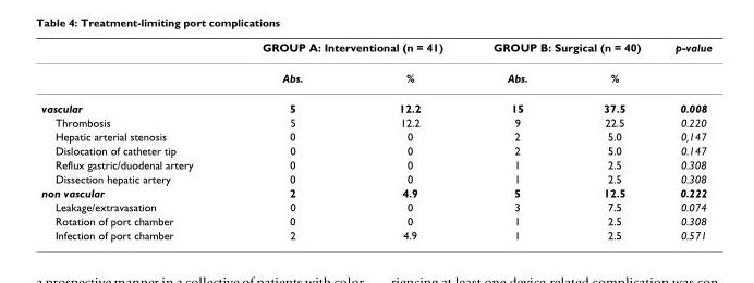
<table><thead><tr><td rowspan="2"></td><td colspan="2">GROUP A: Interventional (n = 41)</td><td colspan="2">GROUP B: Surgical (n = 40)</td><td rowspan="2">p-value</td></tr><tr><td>Abs.</td><td>%</td><td>Abs.</td><td>%</td></tr></thead><tbody><tr><td>vascular</td><td>5</td><td>12.2</td><td>15</td><td>37.5</td><td>0.008</td></tr><tr><td>Thrombosis</td><td>5</td><td>12.2</td><td>9</td><td>22.5</td><td>0.220</td></tr><tr><td>Hepatic arterial stenosis</td><td>0</td><td>0</td><td>2</td><td>5.0</td><td>0,147</td></tr><tr><td>Dislocation of catheter tip</td><td>0</td><td>0</td><td>2</td><td>5.0</td><td>0.147</td></tr><tr><td>Reflux gastric/duodenal artery</td><td>0</td><td>0</td><td>1</td><td>2.5</td><td>0.308</td></tr><tr><td>Dissection hepatic artery</td><td>0</td><td>0</td><td>1</td><td>2.5</td><td>0.308</td></tr><tr><td>non vascular</td><td>2</td><td>4.9</td><td>5</td><td>12.5</td><td>0.222</td></tr><tr><td>Leakage/extravasation</td><td>0</td><td>0</td><td>3</td><td>7.5</td><td>0.074</td></tr><tr><td>Rotation of port chamber</td><td>0</td><td>0</td><td>1</td><td>2.5</td><td>0.308</td></tr><tr><td>Infection of port chamber</td><td>2</td><td>4.9</td><td>1</td><td>2.5</td><td>0.571</td></tr></tbody></table>